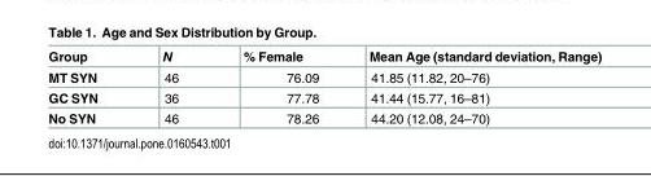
<table><thead><tr><td>Group</td><td>N</td><td>% Female</td><td>Mean Age (standard deviation, Range)</td></tr></thead><tbody><tr><td>MT SYN</td><td>46</td><td>76.09</td><td>41.85 (11.82, 20–76)</td></tr><tr><td>GC SYN</td><td>36</td><td>77.78</td><td>41.44 (15.77, 16–81)</td></tr><tr><td>No SYN</td><td>46</td><td>78.26</td><td>44.20 (12.08, 24–70)</td></tr></tbody></table>